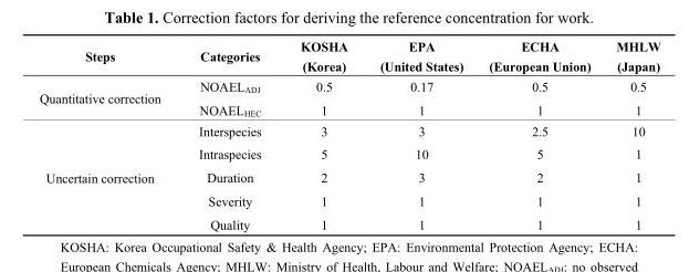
<table><thead><tr><td>Steps</td><td>Categories</td><td>KOSHA (Korea)</td><td>EPA (United States)</td><td>ECHA (European Union)</td><td>MHLW (Japan)</td></tr></thead><tbody><tr><td rowspan="2">Quantitative correction</td><td>NOAEL<sub>ADJ</sub></td><td>0.5</td><td>0.17</td><td>0.5</td><td>0.5</td></tr><tr><td>NOAEL<sub>HEC</sub></td><td>1</td><td>1</td><td>1</td><td>1</td></tr><tr><td rowspan="5">Uncertain correction</td><td>Interspecies</td><td>3</td><td>3</td><td>2.5</td><td>10</td></tr><tr><td>Intraspecies</td><td>5</td><td>10</td><td>5</td><td>1</td></tr><tr><td>Duration</td><td>2</td><td>3</td><td>2</td><td>1</td></tr><tr><td>Severity</td><td>1</td><td>1</td><td>1</td><td>1</td></tr><tr><td>Quality</td><td>1</td><td>1</td><td>1</td><td>1</td></tr></tbody></table>